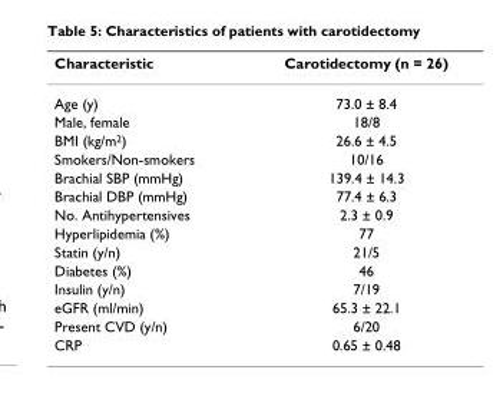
<table><thead><tr><td>Characteristic</td><td>Carotidectomy (n = 26)</td></tr></thead><tbody><tr><td>Age (y)</td><td>73.0 ± 8.4</td></tr><tr><td>Male, female</td><td>18/8</td></tr><tr><td>BMI (kg/m<sup>2</sup>)</td><td>26.6 ± 4.5</td></tr><tr><td>Smokers/Non-smokers</td><td>10/16</td></tr><tr><td>Brachial SBP (mmHg)</td><td>139.4 ± 14.3</td></tr><tr><td>Brachial DBP (mmHg)</td><td>77.4 ± 6.3</td></tr><tr><td>No. Antihypertensives</td><td>2.3 ± 0.9</td></tr><tr><td>Hyperlipidemia (%)</td><td>77</td></tr><tr><td>Statin (y/n)</td><td>21/5</td></tr><tr><td>Diabetes (%)</td><td>46</td></tr><tr><td>Insulin (y/n)</td><td>7/19</td></tr><tr><td>eGFR (ml/min)</td><td>65.3 ± 22.1</td></tr><tr><td>Present CVD (y/n)</td><td>6/20</td></tr><tr><td>CRP</td><td>0.65 ± 0.48</td></tr></tbody></table>